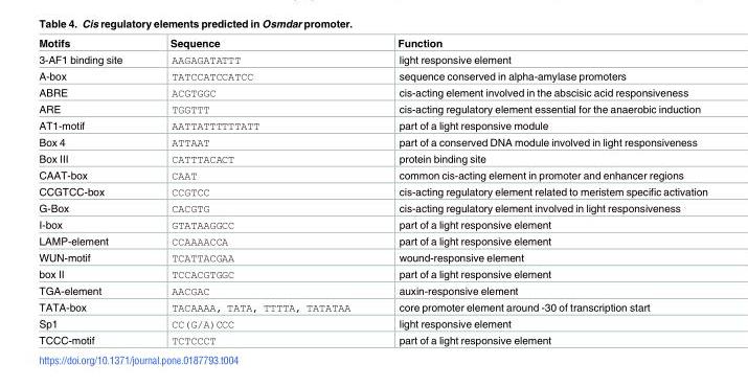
<table><thead><tr><td>Motifs</td><td>Sequence</td><td>Function</td></tr></thead><tbody><tr><td>3-AF1 binding site</td><td>AAGAGATATTT</td><td>light responsive element</td></tr><tr><td>A-box</td><td>TATCCATCCATCC</td><td>sequence conserved in alpha-amylase promoters</td></tr><tr><td>ABRE</td><td>ACGTGGC</td><td>cis-acting element involved in the abscisic acid responsiveness</td></tr><tr><td>ARE</td><td>TGGTTT</td><td>cis-acting regulatory element essential for the anaerobic induction</td></tr><tr><td>AT1-motif</td><td>AATTATTTTTTATT</td><td>part of a light responsive module</td></tr><tr><td>Box 4</td><td>ATTAAT</td><td>part of a conserved DNA module involved in light responsiveness</td></tr><tr><td>Box III</td><td>CATTTACACT</td><td>protein binding site</td></tr><tr><td>CAAT-box</td><td>CAAT</td><td>common cis-acting element in promoter and enhancer regions</td></tr><tr><td>CCGTCC-box</td><td>CCGTCC</td><td>cis-acting regulatory element related to meristem specific activation</td></tr><tr><td>G-Box</td><td>CACGTG</td><td>cis-acting regulatory element involved in light responsiveness</td></tr><tr><td>I-box</td><td>GTATAAGGCC</td><td>part of a light responsive element</td></tr><tr><td>LAMP-element</td><td>CCAAAACCA</td><td>part of a light responsive element</td></tr><tr><td>WUN-motif</td><td>TCATTACGAA</td><td>wound-responsive element</td></tr><tr><td>box II</td><td>TCCACGTGGC</td><td>part of a light responsive element</td></tr><tr><td>TGA-element</td><td>AACGAC</td><td>auxin-responsive element</td></tr><tr><td>TATA-box</td><td>TACAAAA, TATA, TTTTA, TATATAA</td><td>core promoter element around -30 of transcription start</td></tr><tr><td>Sp1</td><td>CC(G/A)CCC</td><td>light responsive element</td></tr><tr><td>TCCC-motif</td><td>TCTCCCT</td><td>part of a light responsive element</td></tr></tbody></table>